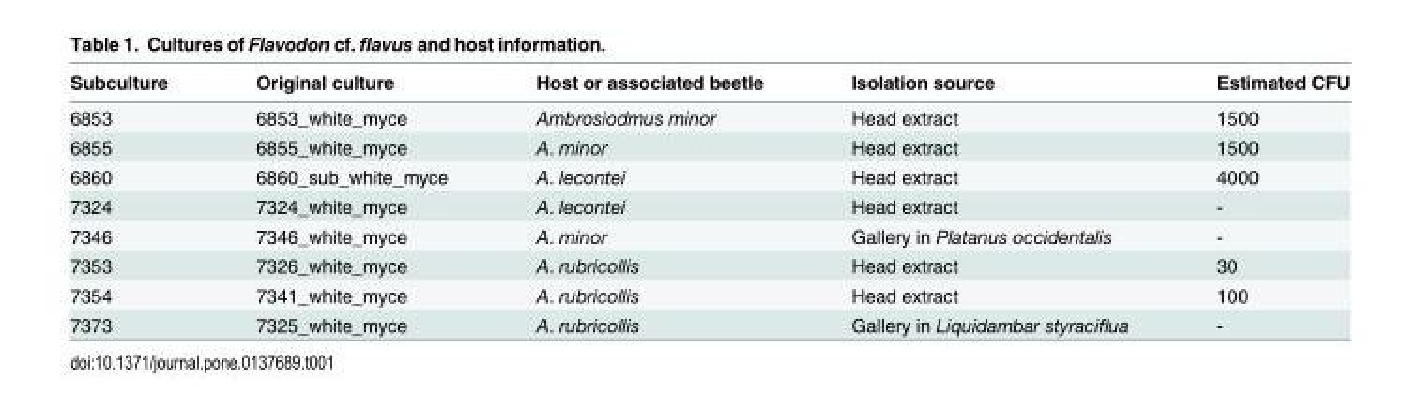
<table><thead><tr><td>Subculture</td><td>Original culture</td><td>Host or associated beetle</td><td>Isolation source</td><td>Estimated CFU</td></tr></thead><tbody><tr><td>6853</td><td>6853_white_myce</td><td>Ambrosiodmus minor</td><td>Head extract</td><td>1500</td></tr><tr><td>6855</td><td>6855_white_myce</td><td>A. minor</td><td>Head extract</td><td>1500</td></tr><tr><td>6860</td><td>6860_sub_white_myce</td><td>A. lecontei</td><td>Head extract</td><td>4000</td></tr><tr><td>7324</td><td>7324_white_myce</td><td>A. lecontei</td><td>Head extract</td><td>-</td></tr><tr><td>7346</td><td>7346_white_myce</td><td>A. minor</td><td>Gallery in Platanus occidentalis</td><td>-</td></tr><tr><td>7353</td><td>7326_white_myce</td><td>A. rubricollis</td><td>Head extract</td><td>30</td></tr><tr><td>7354</td><td>7341_white_myce</td><td>A. rubricollis</td><td>Head extract</td><td>100</td></tr><tr><td>7373</td><td>7325_white_myce</td><td>A. rubricollis</td><td>Gallery in Liquidambar styraciflua</td><td>-</td></tr></tbody></table>